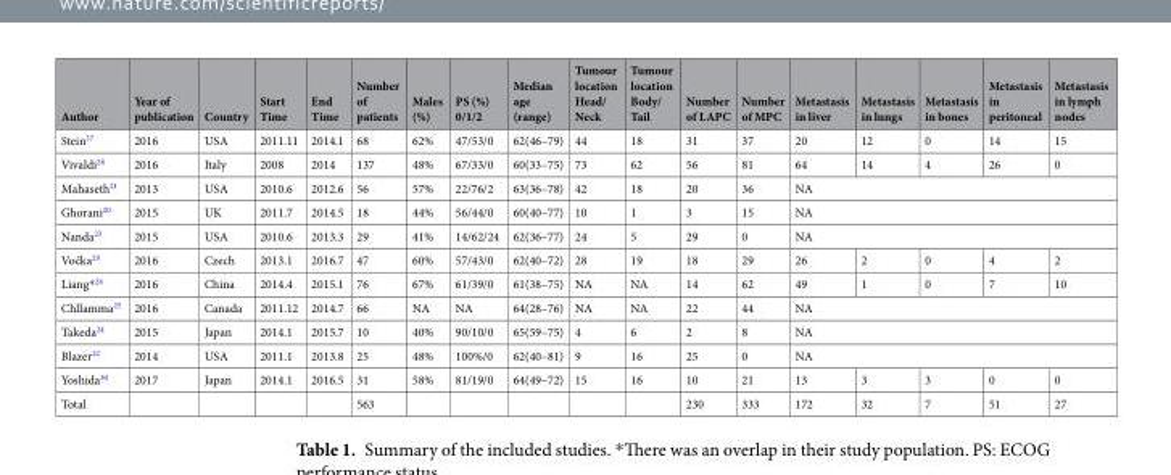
<table><thead><tr><td>Author</td><td>Year of publication</td><td>Country</td><td>Start Time</td><td>End Time</td><td>Number of patients</td><td>Males (%)</td><td>PS (%) 0/1/2</td><td>Median age (range)</td><td>Tumour location Head/ Neck</td><td>Tumour location Body/ Tail</td><td>Number of LAPC</td><td>Number of MPC</td><td>Metastasis in liver</td><td>Metastasis in lungs</td><td>Metastasis in bones</td><td>Metastasis in peritoneal</td><td>Metastasis in lymph nodes</td></tr></thead><tbody><tr><td>Stein<sup>27</sup></td><td>2016</td><td>USA</td><td>2011.11</td><td>2014.1</td><td>68</td><td>62%</td><td>47/53/0</td><td>62(46–79)</td><td>44</td><td>18</td><td>31</td><td>37</td><td>20</td><td>12</td><td>0</td><td>14</td><td>15</td></tr><tr><td>Vivaldi<sup>28</sup></td><td>2016</td><td>Italy</td><td>2008</td><td>2014</td><td>137</td><td>48%</td><td>67/33/0</td><td>60(33–75)</td><td>73</td><td>62</td><td>56</td><td>81</td><td>64</td><td>14</td><td>4</td><td>26</td><td>0</td></tr><tr><td>Mahaseth<sup>21</sup></td><td>2013</td><td>USA</td><td>2010.6</td><td>2012.6</td><td>56</td><td>57%</td><td>22/76/2</td><td>63(36–78)</td><td>42</td><td>18</td><td>20</td><td>36</td><td colspan="5">NA</td></tr><tr><td>Ghorani<sup>20</sup></td><td>2015</td><td>UK</td><td>2011.7</td><td>2014.5</td><td>18</td><td>44%</td><td>56/44/0</td><td>60(40–77)</td><td>10</td><td>1</td><td>3</td><td>15</td><td colspan="5">NA</td></tr><tr><td>Nanda<sup>23</sup></td><td>2015</td><td>USA</td><td>2010.6</td><td>2013.3</td><td>29</td><td>41%</td><td>14/62/24</td><td>62(36–77)</td><td>24</td><td>5</td><td>29</td><td>0</td><td colspan="5">NA</td></tr><tr><td>Vočka<sup>29</sup></td><td>2016</td><td>Czech</td><td>2013.1</td><td>2016.7</td><td>47</td><td>60%</td><td>57/43/0</td><td>62(40–72)</td><td>28</td><td>19</td><td>18</td><td>29</td><td>26</td><td>2</td><td>0</td><td>4</td><td>2</td></tr><tr><td>Liang*<sup>26</sup></td><td>2016</td><td>China</td><td>2014.4</td><td>2015.1</td><td>76</td><td>67%</td><td>61/39/0</td><td>61(38–75)</td><td>NA</td><td>NA</td><td>14</td><td>62</td><td>49</td><td>1</td><td>0</td><td>7</td><td>10</td></tr><tr><td>Chllamma<sup>25</sup></td><td>2016</td><td>Canada</td><td>2011.12</td><td>2014.7</td><td>66</td><td>NA</td><td>NA</td><td>64(28–76)</td><td>NA</td><td>NA</td><td>22</td><td>44</td><td colspan="5">NA</td></tr><tr><td>Takeda<sup>24</sup></td><td>2015</td><td>Japan</td><td>2014.1</td><td>2015.7</td><td>10</td><td>40%</td><td>90/10/0</td><td>65(59–75)</td><td>4</td><td>6</td><td>2</td><td>8</td><td colspan="5">NA</td></tr><tr><td>Blazer<sup>22</sup></td><td>2014</td><td>USA</td><td>2011.1</td><td>2013.8</td><td>25</td><td>48%</td><td>100%/0</td><td>62(40–81)</td><td>9</td><td>16</td><td>25</td><td>0</td><td colspan="5">NA</td></tr><tr><td>Yoshida<sup>30</sup></td><td>2017</td><td>Japan</td><td>2014.1</td><td>2016.5</td><td>31</td><td>58%</td><td>81/19/0</td><td>64(49–72)</td><td>15</td><td>16</td><td>10</td><td>21</td><td>13</td><td>3</td><td>3</td><td>0</td><td>0</td></tr><tr><td>Total</td><td></td><td></td><td></td><td></td><td>563</td><td></td><td></td><td></td><td></td><td></td><td>230</td><td>333</td><td>172</td><td>32</td><td>7</td><td>51</td><td>27</td></tr></tbody></table>